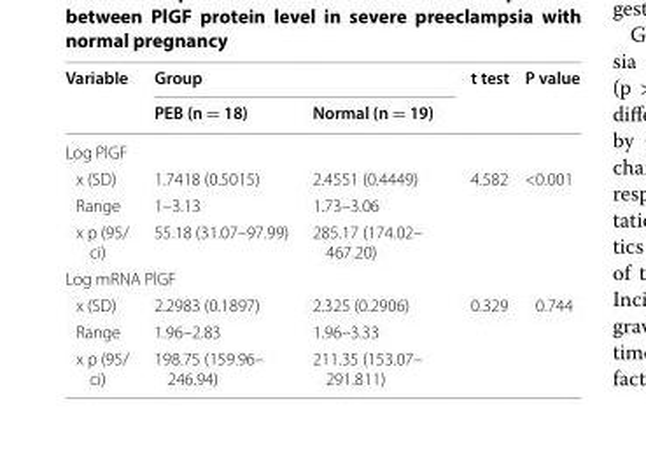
<table><thead><tr><td rowspan="2">Variable</td><td colspan="2">Group</td><td rowspan="2">t test</td><td rowspan="2">P value</td></tr><tr><td>PEB (n = 18)</td><td>Normal (n = 19)</td></tr></thead><tbody><tr><td colspan="5">Log PlGF</td></tr><tr><td>x (SD)</td><td>1.7418 (0.5015)</td><td>2.4551 (0.4449)</td><td rowspan="3">4.582</td><td rowspan="3">&lt;0.001</td></tr><tr><td>Range</td><td>1–3.13</td><td>1.73–3.06</td></tr><tr><td>x p (95/ ci)</td><td>55.18 (31.07–97.99)</td><td>285.17 (174.02– 467.20)</td></tr><tr><td colspan="5">Log mRNA PlGF</td></tr><tr><td>x (SD)</td><td>2.2983 (0.1897)</td><td>2.325 (0.2906)</td><td rowspan="3">0.329</td><td rowspan="3">0.744</td></tr><tr><td>Range</td><td>1.96–2.83</td><td>1.96–3.33</td></tr><tr><td>x p (95/ ci)</td><td>198.75 (159.96– 246.94)</td><td>211.35 (153.07– 291.811)</td></tr></tbody></table>